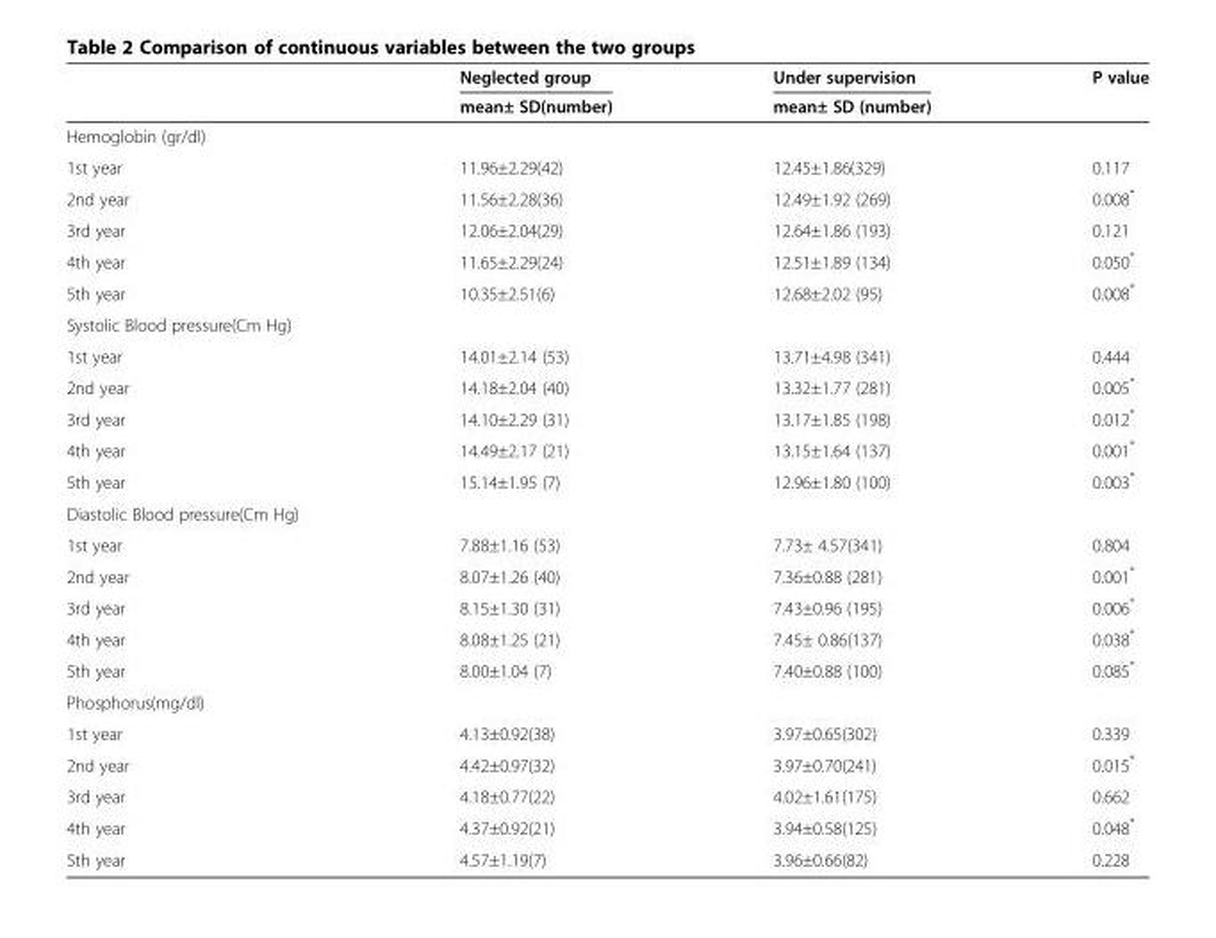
<table><thead><tr><td rowspan="2"></td><td rowspan="2">Neglected group mean± SD(number)</td><td rowspan="2">Under supervision mean± SD (number)</td><td rowspan="2">P value</td></tr><tr></tr></thead><tbody><tr><td colspan="4">Hemoglobin (gr/dl)</td></tr><tr><td>1st year</td><td>11.96±2.29(42)</td><td>12.45±1.86(329)</td><td>0.117</td></tr><tr><td>2nd year</td><td>11.56±2.28(36)</td><td>12.49±1.92 (269)</td><td>0.008*</td></tr><tr><td>3rd year</td><td>12.06±2.04(29)</td><td>12.64±1.86 (193)</td><td>0.121</td></tr><tr><td>4th year</td><td>11.65±2.29(24)</td><td>12.51±1.89 (134)</td><td>0.050*</td></tr><tr><td>5th year</td><td>10.35±2.51(6)</td><td>12.68±2.02 (95)</td><td>0.008*</td></tr><tr><td colspan="4">Systolic Blood pressure(Cm Hg)</td></tr><tr><td>1st year</td><td>14.01±2.14 (53)</td><td>13.71±4.98 (341)</td><td>0.444</td></tr><tr><td>2nd year</td><td>14.18±2.04 (40)</td><td>13.32±1.77 (281)</td><td>0.005*</td></tr><tr><td>3rd year</td><td>14.10±2.29 (31)</td><td>13.17±1.85 (198)</td><td>0.012*</td></tr><tr><td>4th year</td><td>14.49±2.17 (21)</td><td>13.15±1.64 (137)</td><td>0.001*</td></tr><tr><td>5th year</td><td>15.14±1.95 (7)</td><td>12.96±1.80 (100)</td><td>0.003*</td></tr><tr><td colspan="4">Diastolic Blood pressure(Cm Hg)</td></tr><tr><td>1st year</td><td>7.88±1.16 (53)</td><td>7.73± 4.57(341)</td><td>0.804</td></tr><tr><td>2nd year</td><td>8.07±1.26 (40)</td><td>7.36±0.88 (281)</td><td>0.001*</td></tr><tr><td>3rd year</td><td>8.15±1.30 (31)</td><td>7.43±0.96 (195)</td><td>0.006*</td></tr><tr><td>4th year</td><td>8.08±1.25 (21)</td><td>7.45± 0.86(137)</td><td>0.038*</td></tr><tr><td>5th year</td><td>8.00±1.04 (7)</td><td>7.40±0.88 (100)</td><td>0.085*</td></tr><tr><td colspan="4">Phosphorus(mg/dl)</td></tr><tr><td>1st year</td><td>4.13±0.92(38)</td><td>3.97±0.65(302)</td><td>0.339</td></tr><tr><td>2nd year</td><td>4.42±0.97(32)</td><td>3.97±0.70(241)</td><td>0.015*</td></tr><tr><td>3rd year</td><td>4.18±0.77(22)</td><td>4.02±1.61(175)</td><td>0.662</td></tr><tr><td>4th year</td><td>4.37±0.92(21)</td><td>3.94±0.58(125)</td><td>0.048*</td></tr><tr><td>5th year</td><td>4.57±1.19(7)</td><td>3.96±0.66(82)</td><td>0.228</td></tr></tbody></table>